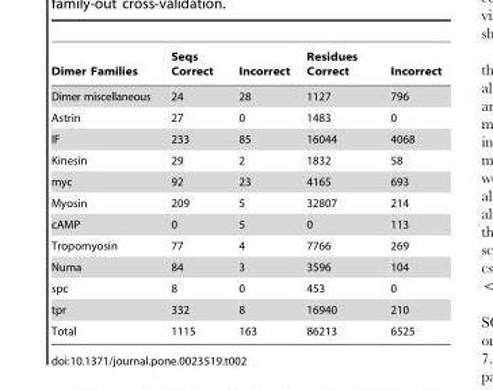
<table><thead><tr><td>Dimer Families</td><td>Seqs Correct</td><td>Incorrect</td><td>Residues Correct</td><td>Incorrect</td></tr></thead><tbody><tr><td>Dimer miscellaneous</td><td>24</td><td>28</td><td>1127</td><td>796</td></tr><tr><td>Astrin</td><td>27</td><td>0</td><td>1483</td><td>0</td></tr><tr><td>IF</td><td>233</td><td>85</td><td>16044</td><td>4068</td></tr><tr><td>Kinesin</td><td>29</td><td>2</td><td>1832</td><td>58</td></tr><tr><td>myc</td><td>92</td><td>23</td><td>4165</td><td>693</td></tr><tr><td>Myosin</td><td>209</td><td>5</td><td>32807</td><td>214</td></tr><tr><td>cAMP</td><td>0</td><td>5</td><td>0</td><td>113</td></tr><tr><td>Tropomyosin</td><td>77</td><td>4</td><td>7766</td><td>269</td></tr><tr><td>Numa</td><td>84</td><td>3</td><td>3596</td><td>104</td></tr><tr><td>spc</td><td>8</td><td>0</td><td>453</td><td>0</td></tr><tr><td>tpr</td><td>332</td><td>8</td><td>16940</td><td>210</td></tr><tr><td>Total</td><td>1115</td><td>163</td><td>86213</td><td>6525</td></tr></tbody></table>